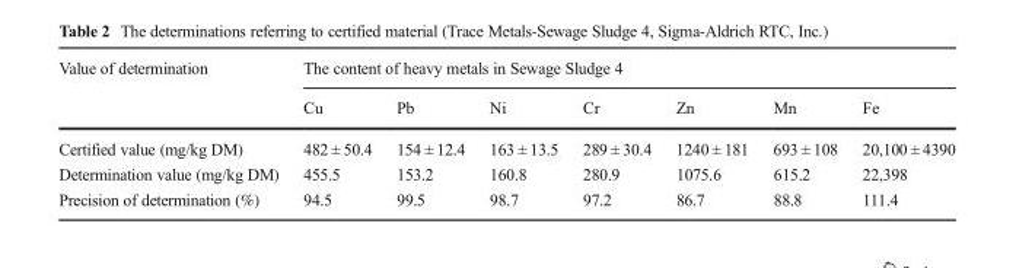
<table><thead><tr><td rowspan="2">Value of determination</td><td colspan="7">The content of heavy metals in Sewage Sludge 4</td></tr><tr><td>Cu</td><td>Pb</td><td>Ni</td><td>Cr</td><td>Zn</td><td>Mn</td><td>Fe</td></tr></thead><tbody><tr><td>Certified value (mg/kg DM)</td><td>482 ± 50.4</td><td>154 ± 12.4</td><td>163 ± 13.5</td><td>289 ± 30.4</td><td>1240 ± 181</td><td>693 ± 108</td><td>20,100 ± 4390</td></tr><tr><td>Determination value (mg/kg DM)</td><td>455.5</td><td>153.2</td><td>160.8</td><td>280.9</td><td>1075.6</td><td>615.2</td><td>22,398</td></tr><tr><td>Precision of determination (%)</td><td>94.5</td><td>99.5</td><td>98.7</td><td>97.2</td><td>86.7</td><td>88.8</td><td>111.4</td></tr></tbody></table>